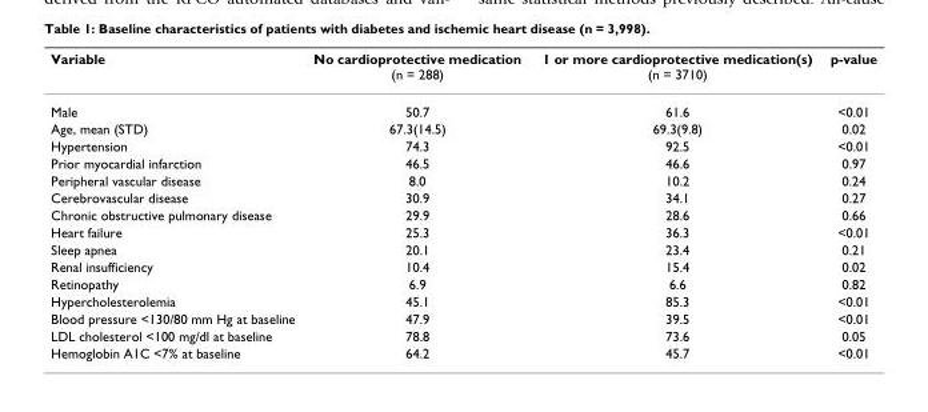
<table><thead><tr><td>Variable</td><td>No cardioprotective medication (n = 288)</td><td>1 or more cardioprotective medication(s) (n = 3710)</td><td>p-value</td></tr></thead><tbody><tr><td>Male</td><td>50.7</td><td>61.6</td><td>&lt;0.01</td></tr><tr><td>Age, mean (STD)</td><td>67.3(14.5)</td><td>69.3(9.8)</td><td>0.02</td></tr><tr><td>Hypertension</td><td>74.3</td><td>92.5</td><td>&lt;0.01</td></tr><tr><td>Prior myocardial infarction</td><td>46.5</td><td>46.6</td><td>0.97</td></tr><tr><td>Peripheral vascular disease</td><td>8.0</td><td>10.2</td><td>0.24</td></tr><tr><td>Cerebrovascular disease</td><td>30.9</td><td>34.1</td><td>0.27</td></tr><tr><td>Chronic obstructive pulmonary disease</td><td>29.9</td><td>28.6</td><td>0.66</td></tr><tr><td>Heart failure</td><td>25.3</td><td>36.3</td><td>&lt;0.01</td></tr><tr><td>Sleep apnea</td><td>20.1</td><td>23.4</td><td>0.21</td></tr><tr><td>Renal insufficiency</td><td>10.4</td><td>15.4</td><td>0.02</td></tr><tr><td>Retinopathy</td><td>6.9</td><td>6.6</td><td>0.82</td></tr><tr><td>Hypercholesterolemia</td><td>45.1</td><td>85.3</td><td>&lt;0.01</td></tr><tr><td>Blood pressure &lt;130/80 mm Hg at baseline</td><td>47.9</td><td>39.5</td><td>&lt;0.01</td></tr><tr><td>LDL cholesterol &lt;100 mg/dl at baseline</td><td>78.8</td><td>73.6</td><td>0.05</td></tr><tr><td>Hemoglobin A1C &lt;7% at baseline</td><td>64.2</td><td>45.7</td><td>&lt;0.01</td></tr></tbody></table>